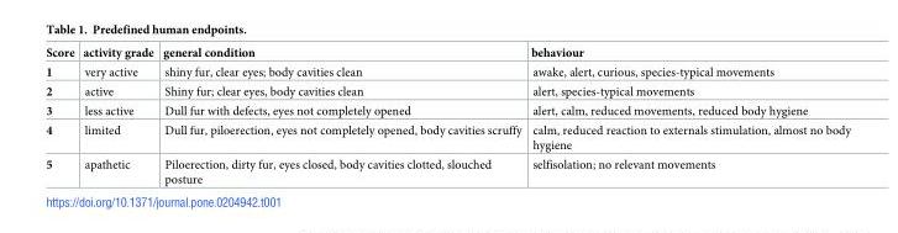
<table><thead><tr><td>Score</td><td>activity grade</td><td>general condition</td><td>behaviour</td></tr></thead><tbody><tr><td>1</td><td>very active</td><td>shiny fur, clear eyes; body cavities clean</td><td>awake, alert, curious, species-typical movements</td></tr><tr><td>2</td><td>active</td><td>Shiny fur; clear eyes, body cavities clean</td><td>alert, species-typical movements</td></tr><tr><td>3</td><td>less active</td><td>Dull fur with defects, eyes not completely opened</td><td>alert, calm, reduced movements, reduced body hygiene</td></tr><tr><td>4</td><td>limited</td><td>Dull fur, piloerection, eyes not completely opened, body cavities scruffy</td><td>calm, reduced reaction to externals stimulation, almost no body hygiene</td></tr><tr><td>5</td><td>apathetic</td><td>Piloerection, dirty fur, eyes closed, body cavities clotted, slouched posture</td><td>selfisolation; no relevant movements</td></tr></tbody></table>